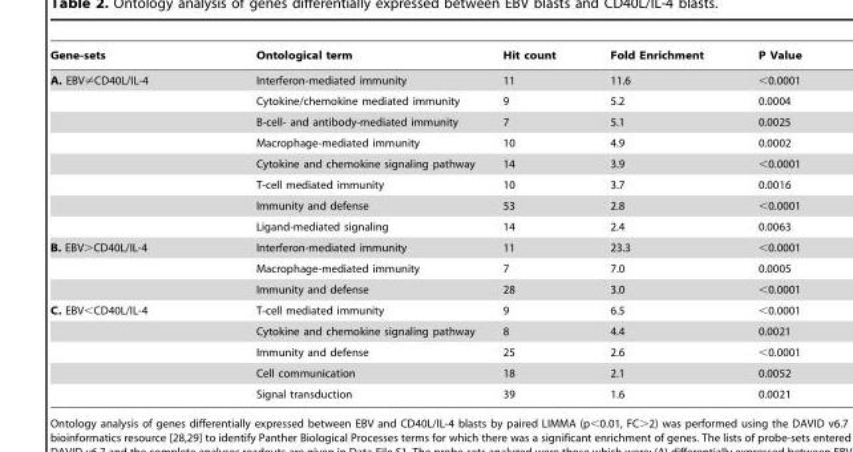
<table><thead><tr><td>Gene-sets</td><td>Ontological term</td><td>Hit count</td><td>Fold Enrichment</td><td>P Value</td></tr></thead><tbody><tr><td rowspan="8">A. EBV≠CD40L/IL-4</td><td>Interferon-mediated immunity</td><td>11</td><td>11.6</td><td>&lt;0.0001</td></tr><tr><td>Cytokine/chemokine mediated immunity</td><td>9</td><td>5.2</td><td>0.0004</td></tr><tr><td>B-cell- and antibody-mediated immunity</td><td>7</td><td>5.1</td><td>0.0025</td></tr><tr><td>Macrophage-mediated immunity</td><td>10</td><td>4.9</td><td>0.0002</td></tr><tr><td>Cytokine and chemokine signaling pathway</td><td>14</td><td>3.9</td><td>&lt;0.0001</td></tr><tr><td>T-cell mediated immunity</td><td>10</td><td>3.7</td><td>0.0016</td></tr><tr><td>Immunity and defense</td><td>53</td><td>2.8</td><td>&lt;0.0001</td></tr><tr><td>Ligand-mediated signaling</td><td>14</td><td>2.4</td><td>0.0063</td></tr><tr><td rowspan="3">B. EBV&gt;CD40L/IL-4</td><td>Interferon-mediated immunity</td><td>11</td><td>23.3</td><td>&lt;0.0001</td></tr><tr><td>Macrophage-mediated immunity</td><td>7</td><td>7.0</td><td>0.0005</td></tr><tr><td>Immunity and defense</td><td>28</td><td>3.0</td><td>&lt;0.0001</td></tr><tr><td rowspan="5">C. EBV&lt;CD40L/IL-4</td><td>T-cell mediated immunity</td><td>9</td><td>6.5</td><td>&lt;0.0001</td></tr><tr><td>Cytokine and chemokine signaling pathway</td><td>8</td><td>4.4</td><td>0.0021</td></tr><tr><td>Immunity and defense</td><td>25</td><td>2.6</td><td>&lt;0.0001</td></tr><tr><td>Cell communication</td><td>18</td><td>2.1</td><td>0.0052</td></tr><tr><td>Signal transduction</td><td>39</td><td>1.6</td><td>0.0021</td></tr></tbody></table>